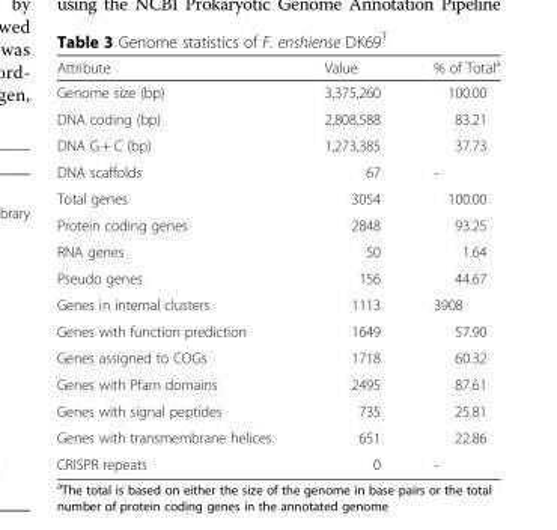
<table><thead><tr><td>Attribute</td><td>Value</td><td>% of Total<sup>a</sup></td></tr></thead><tbody><tr><td>Genome size (bp)</td><td>3,375,260</td><td>100.00</td></tr><tr><td>DNA coding (bp)</td><td>2,808,588</td><td>83.21</td></tr><tr><td>DNA G + C (bp)</td><td>1,273,385</td><td>37.73</td></tr><tr><td>DNA scaffolds</td><td>67</td><td>-</td></tr><tr><td>Total genes</td><td>3054</td><td>100.00</td></tr><tr><td>Protein coding genes</td><td>2848</td><td>93.25</td></tr><tr><td>RNA genes</td><td>50</td><td>1.64</td></tr><tr><td>Pseudo genes</td><td>156</td><td>44.67</td></tr><tr><td>Genes in internal clusters</td><td>1113</td><td>3908</td></tr><tr><td>Genes with function prediction</td><td>1649</td><td>57.90</td></tr><tr><td>Genes assigned to COGs</td><td>1718</td><td>60.32</td></tr><tr><td>Genes with Pfam domains</td><td>2495</td><td>87.61</td></tr><tr><td>Genes with signal peptides</td><td>735</td><td>25.81</td></tr><tr><td>Genes with transmembrane helices</td><td>651</td><td>22.86</td></tr><tr><td>CRISPR repeats</td><td>0</td><td>-</td></tr></tbody></table>